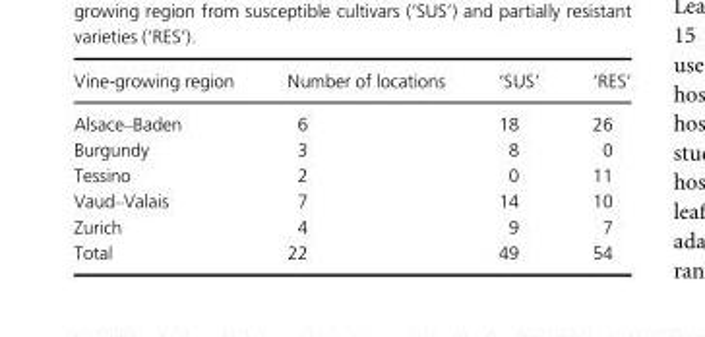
<table><thead><tr><td>Vine-growing region</td><td>Number of locations</td><td>‘SUS’</td><td>‘RES’</td></tr></thead><tbody><tr><td>Alsace–Baden</td><td>6</td><td>18</td><td>26</td></tr><tr><td>Burgundy</td><td>3</td><td>8</td><td>0</td></tr><tr><td>Tessino</td><td>2</td><td>0</td><td>11</td></tr><tr><td>Vaud–Valais</td><td>7</td><td>14</td><td>10</td></tr><tr><td>Zurich</td><td>4</td><td>9</td><td>7</td></tr><tr><td>Total</td><td>22</td><td>49</td><td>54</td></tr></tbody></table>